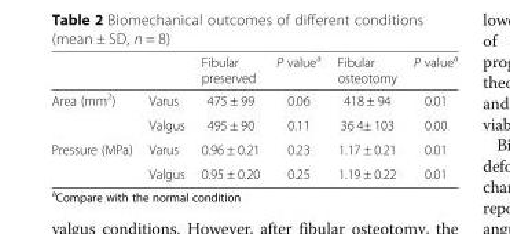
<table><thead><tr><td></td><td></td><td>Fibular preserved</td><td>P value<sup>a</sup></td><td>Fibular osteotomy</td><td>P value<sup>a</sup></td></tr></thead><tbody><tr><td rowspan="2">Area (mm<sup>2</sup>)</td><td>Varus</td><td>475 ± 99</td><td>0.06</td><td>418 ± 94</td><td>0.01</td></tr><tr><td>Valgus</td><td>495 ± 90</td><td>0.11</td><td>36 4± 103</td><td>0.00</td></tr><tr><td rowspan="2">Pressure (MPa)</td><td>Varus</td><td>0.96 ± 0.21</td><td>0.23</td><td>1.17 ± 0.21</td><td>0.01</td></tr><tr><td>Valgus</td><td>0.95 ± 0.20</td><td>0.25</td><td>1.19 ± 0.22</td><td>0.01</td></tr></tbody></table>